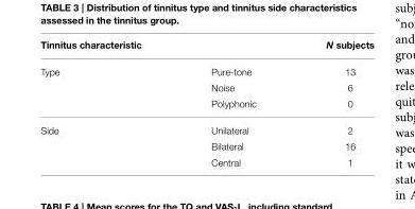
<table><thead><tr><td>Tinnitus characteristic</td><td></td><td>N subjects</td></tr></thead><tbody><tr><td rowspan="3">Type</td><td>Pure-tone</td><td>13</td></tr><tr><td>Noise</td><td>6</td></tr><tr><td>Polyphonic</td><td>0</td></tr><tr><td rowspan="3">Side</td><td>Unilateral</td><td>2</td></tr><tr><td>Bilateral</td><td>16</td></tr><tr><td>Central</td><td>1</td></tr></tbody></table>